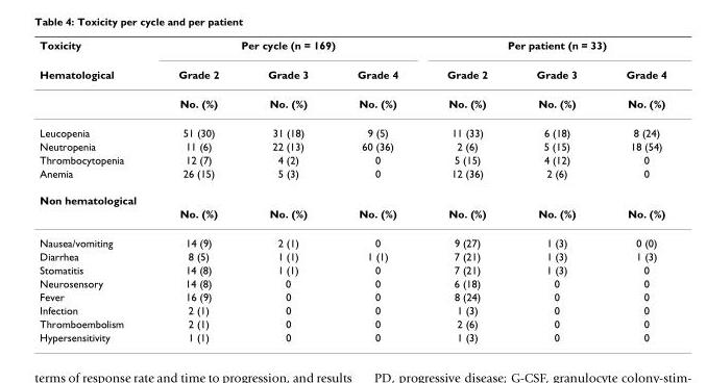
<table><thead><tr><td rowspan="2">Toxicity Hematological</td><td colspan="3">Per cycle (n = 169)</td><td colspan="3">Per patient (n = 33)</td></tr><tr><td>Grade 2</td><td>Grade 3</td><td>Grade 4</td><td>Grade 2</td><td>Grade 3</td><td>Grade 4</td></tr></thead><tbody><tr><td></td><td>No. (%)</td><td>No. (%)</td><td>No. (%)</td><td>No. (%)</td><td>No. (%)</td><td>No. (%)</td></tr><tr><td>Leucopenia</td><td>51 (30)</td><td>31 (18)</td><td>9 (5)</td><td>11 (33)</td><td>6 (18)</td><td>8 (24)</td></tr><tr><td>Neutropenia</td><td>11 (6)</td><td>22 (13)</td><td>60 (36)</td><td>2 (6)</td><td>5 (15)</td><td>18 (54)</td></tr><tr><td>Thrombocytopenia</td><td>12 (7)</td><td>4 (2)</td><td>0</td><td>5 (15)</td><td>4 (12)</td><td>0</td></tr><tr><td>Anemia</td><td>26 (15)</td><td>5 (3)</td><td>0</td><td>12 (36)</td><td>2 (6)</td><td>0</td></tr><tr><td colspan="7">Non hematological</td></tr><tr><td></td><td>No. (%)</td><td>No. (%)</td><td>No. (%)</td><td>No. (%)</td><td>No. (%)</td><td>No. (%)</td></tr><tr><td>Nausea/vomiting</td><td>14 (9)</td><td>2 (1)</td><td>0</td><td>9 (27)</td><td>1 (3)</td><td>0 (0)</td></tr><tr><td>Diarrhea</td><td>8 (5)</td><td>1 (1)</td><td>1 (1)</td><td>7 (21)</td><td>1 (3)</td><td>1 (3)</td></tr><tr><td>Stomatitis</td><td>14 (8)</td><td>1 (1)</td><td>0</td><td>7 (21)</td><td>1 (3)</td><td>0</td></tr><tr><td>Neurosensory</td><td>14 (8)</td><td>0</td><td>0</td><td>6 (18)</td><td>0</td><td>0</td></tr><tr><td>Fever</td><td>16 (9)</td><td>0</td><td>0</td><td>8 (24)</td><td>0</td><td>0</td></tr><tr><td>Infection</td><td>2 (1)</td><td>0</td><td>0</td><td>1 (3)</td><td>0</td><td>0</td></tr><tr><td>Thromboembolism</td><td>2 (1)</td><td>0</td><td>0</td><td>2 (6)</td><td>0</td><td>0</td></tr><tr><td>Hypersensitivity</td><td>1 (1)</td><td>0</td><td>0</td><td>1 (3)</td><td>0</td><td>0</td></tr></tbody></table>